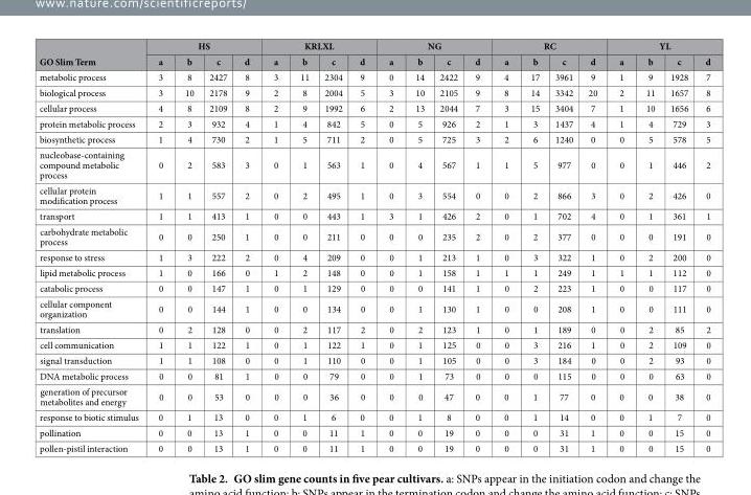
<table><thead><tr><td rowspan="2">GO Slim Term</td><td colspan="4">HS</td><td colspan="4">KRLXL</td><td colspan="4">NG</td><td colspan="4">RC</td><td colspan="4">YL</td></tr><tr><td>a</td><td>b</td><td>c</td><td>d</td><td>a</td><td>b</td><td>c</td><td>d</td><td>a</td><td>b</td><td>c</td><td>d</td><td>a</td><td>b</td><td>c</td><td>d</td><td>a</td><td>b</td><td>c</td><td>d</td></tr></thead><tbody><tr><td>metabolic process</td><td>3</td><td>8</td><td>2427</td><td>8</td><td>3</td><td>11</td><td>2304</td><td>9</td><td>0</td><td>14</td><td>2422</td><td>9</td><td>4</td><td>17</td><td>3961</td><td>9</td><td>1</td><td>9</td><td>1928</td><td>7</td></tr><tr><td>biological process</td><td>3</td><td>10</td><td>2178</td><td>9</td><td>2</td><td>8</td><td>2004</td><td>5</td><td>3</td><td>10</td><td>2105</td><td>9</td><td>8</td><td>14</td><td>3342</td><td>20</td><td>2</td><td>11</td><td>1657</td><td>8</td></tr><tr><td>cellular process</td><td>4</td><td>8</td><td>2109</td><td>8</td><td>2</td><td>9</td><td>1992</td><td>6</td><td>2</td><td>13</td><td>2044</td><td>7</td><td>3</td><td>15</td><td>3404</td><td>7</td><td>1</td><td>10</td><td>1656</td><td>6</td></tr><tr><td>protein metabolic process</td><td>2</td><td>3</td><td>932</td><td>4</td><td>1</td><td>4</td><td>842</td><td>5</td><td>0</td><td>5</td><td>926</td><td>2</td><td>1</td><td>3</td><td>1437</td><td>4</td><td>1</td><td>4</td><td>729</td><td>3</td></tr><tr><td>biosynthetic process</td><td>1</td><td>4</td><td>730</td><td>2</td><td>1</td><td>5</td><td>711</td><td>2</td><td>0</td><td>5</td><td>725</td><td>3</td><td>2</td><td>6</td><td>1240</td><td>0</td><td>0</td><td>5</td><td>578</td><td>5</td></tr><tr><td>nucleobase-containing compound metabolic process</td><td>0</td><td>2</td><td>583</td><td>3</td><td>0</td><td>1</td><td>563</td><td>1</td><td>0</td><td>4</td><td>567</td><td>1</td><td>1</td><td>5</td><td>977</td><td>0</td><td>0</td><td>1</td><td>446</td><td>2</td></tr><tr><td>cellular protein modification process</td><td>1</td><td>1</td><td>557</td><td>2</td><td>0</td><td>2</td><td>495</td><td>1</td><td>0</td><td>3</td><td>554</td><td>0</td><td>0</td><td>2</td><td>866</td><td>3</td><td>0</td><td>2</td><td>426</td><td>0</td></tr><tr><td>transport</td><td>1</td><td>1</td><td>413</td><td>1</td><td>0</td><td>0</td><td>443</td><td>1</td><td>3</td><td>1</td><td>426</td><td>2</td><td>0</td><td>1</td><td>702</td><td>4</td><td>0</td><td>1</td><td>361</td><td>1</td></tr><tr><td>carbohydrate metabolic process</td><td>0</td><td>0</td><td>250</td><td>1</td><td>0</td><td>0</td><td>211</td><td>0</td><td>0</td><td>0</td><td>235</td><td>2</td><td>0</td><td>2</td><td>377</td><td>0</td><td>0</td><td>0</td><td>191</td><td>0</td></tr><tr><td>response to stress</td><td>1</td><td>3</td><td>222</td><td>2</td><td>0</td><td>4</td><td>209</td><td>0</td><td>0</td><td>1</td><td>213</td><td>1</td><td>0</td><td>3</td><td>322</td><td>1</td><td>0</td><td>2</td><td>200</td><td>0</td></tr><tr><td>lipid metabolic process</td><td>1</td><td>0</td><td>166</td><td>0</td><td>1</td><td>2</td><td>148</td><td>0</td><td>0</td><td>1</td><td>158</td><td>1</td><td>1</td><td>1</td><td>249</td><td>1</td><td>1</td><td>1</td><td>112</td><td>0</td></tr><tr><td>catabolic process</td><td>0</td><td>0</td><td>147</td><td>1</td><td>0</td><td>1</td><td>129</td><td>0</td><td>0</td><td>0</td><td>141</td><td>1</td><td>0</td><td>2</td><td>223</td><td>1</td><td>0</td><td>0</td><td>117</td><td>0</td></tr><tr><td>cellular component organization</td><td>0</td><td>0</td><td>144</td><td>1</td><td>0</td><td>0</td><td>134</td><td>0</td><td>0</td><td>1</td><td>130</td><td>1</td><td>0</td><td>0</td><td>208</td><td>1</td><td>0</td><td>0</td><td>111</td><td>0</td></tr><tr><td>translation</td><td>0</td><td>2</td><td>128</td><td>0</td><td>0</td><td>2</td><td>117</td><td>2</td><td>0</td><td>2</td><td>123</td><td>1</td><td>0</td><td>1</td><td>189</td><td>0</td><td>0</td><td>2</td><td>85</td><td>2</td></tr><tr><td>cell communication</td><td>1</td><td>1</td><td>122</td><td>1</td><td>0</td><td>1</td><td>122</td><td>1</td><td>0</td><td>1</td><td>125</td><td>0</td><td>0</td><td>3</td><td>216</td><td>1</td><td>0</td><td>2</td><td>109</td><td>0</td></tr><tr><td>signal transduction</td><td>1</td><td>1</td><td>108</td><td>0</td><td>0</td><td>1</td><td>110</td><td>0</td><td>0</td><td>1</td><td>105</td><td>0</td><td>0</td><td>3</td><td>184</td><td>0</td><td>0</td><td>2</td><td>93</td><td>0</td></tr><tr><td>DNA metabolic process</td><td>0</td><td>0</td><td>81</td><td>1</td><td>0</td><td>0</td><td>79</td><td>0</td><td>0</td><td>1</td><td>73</td><td>0</td><td>0</td><td>0</td><td>115</td><td>0</td><td>0</td><td>0</td><td>63</td><td>0</td></tr><tr><td>generation of precursor metabolites and energy</td><td>0</td><td>0</td><td>53</td><td>0</td><td>0</td><td>0</td><td>36</td><td>0</td><td>0</td><td>0</td><td>47</td><td>0</td><td>0</td><td>1</td><td>77</td><td>0</td><td>0</td><td>0</td><td>38</td><td>0</td></tr><tr><td>response to biotic stimulus</td><td>0</td><td>1</td><td>13</td><td>0</td><td>0</td><td>1</td><td>6</td><td>0</td><td>0</td><td>1</td><td>8</td><td>0</td><td>0</td><td>1</td><td>14</td><td>0</td><td>0</td><td>1</td><td>7</td><td>0</td></tr><tr><td>pollination</td><td>0</td><td>0</td><td>13</td><td>1</td><td>0</td><td>0</td><td>11</td><td>1</td><td>0</td><td>0</td><td>19</td><td>0</td><td>0</td><td>0</td><td>31</td><td>1</td><td>0</td><td>0</td><td>15</td><td>0</td></tr><tr><td>pollen-pistil interaction</td><td>0</td><td>0</td><td>13</td><td>1</td><td>0</td><td>0</td><td>11</td><td>1</td><td>0</td><td>0</td><td>19</td><td>0</td><td>0</td><td>0</td><td>31</td><td>1</td><td>0</td><td>0</td><td>15</td><td>0</td></tr></tbody></table>